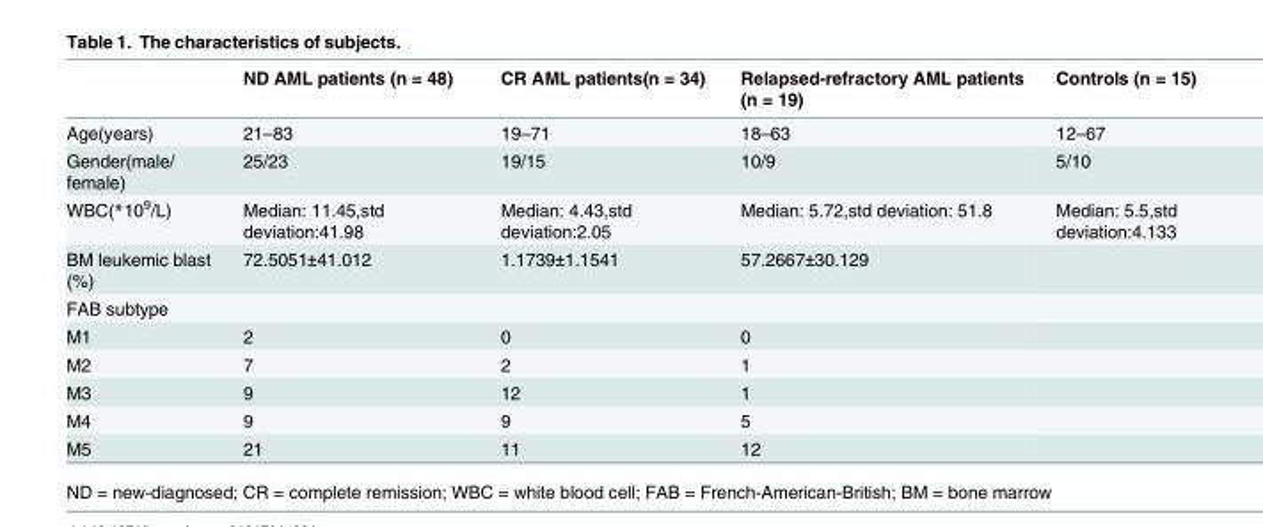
<table><thead><tr><td></td><td>ND AML patients (n = 48)</td><td>CR AML patients(n = 34)</td><td>Relapsed-refractory AML patients (n = 19)</td><td>Controls (n = 15)</td></tr></thead><tbody><tr><td>Age(years)</td><td>21–83</td><td>19–71</td><td>18–63</td><td>12–67</td></tr><tr><td>Gender(male/ female)</td><td>25/23</td><td>19/15</td><td>10/9</td><td>5/10</td></tr><tr><td>WBC(*10<sup>9</sup>/L)</td><td>Median: 11.45,std deviation:41.98</td><td>Median: 4.43,std deviation:2.05</td><td>Median: 5.72,std deviation: 51.8</td><td>Median: 5.5,std deviation:4.133</td></tr><tr><td>BM leukemic blast (%)</td><td>72.5051±41.012</td><td>1.1739±1.1541</td><td>57.2667±30.129</td><td></td></tr><tr><td colspan="5">FAB subtype</td></tr><tr><td>M1</td><td>2</td><td>0</td><td>0</td><td></td></tr><tr><td>M2</td><td>7</td><td>2</td><td>1</td><td></td></tr><tr><td>M3</td><td>9</td><td>12</td><td>1</td><td></td></tr><tr><td>M4</td><td>9</td><td>9</td><td>5</td><td></td></tr><tr><td>M5</td><td>21</td><td>11</td><td>12</td><td></td></tr></tbody></table>